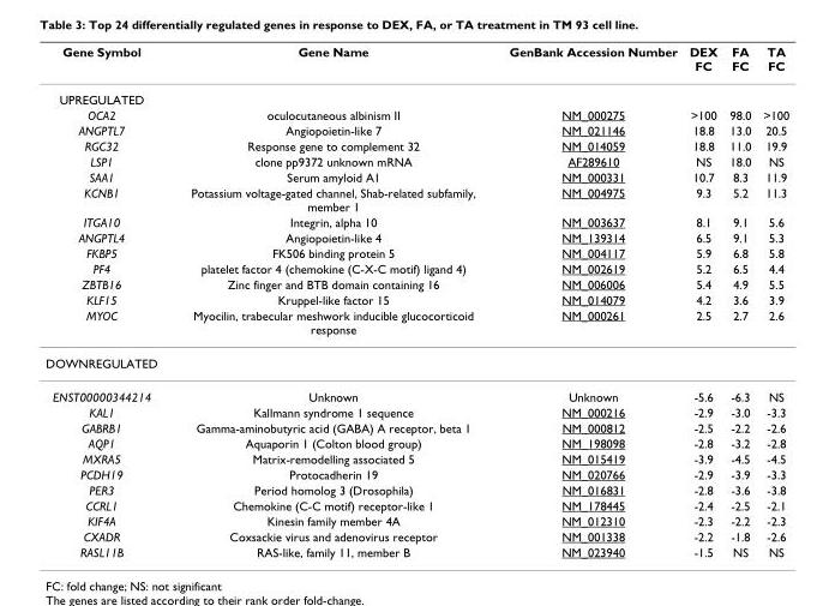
<table><thead><tr><td>Gene Symbol</td><td>Gene Name</td><td>GenBank Accession Number</td><td>DEX FC</td><td>FA FC</td><td>TA FC</td></tr></thead><tbody><tr><td colspan="6">UPREGULATED</td></tr><tr><td>OCA2</td><td>oculocutaneous albinism II</td><td>NM_000275</td><td>&gt;100</td><td>98.0</td><td>&gt;100</td></tr><tr><td>ANGPTL7</td><td>Angiopoietin-like 7</td><td>NM_021146</td><td>18.8</td><td>13.0</td><td>20.5</td></tr><tr><td>RGC32</td><td>Response gene to complement 32</td><td>NM_014059</td><td>18.8</td><td>11.0</td><td>19.9</td></tr><tr><td>LSP1</td><td>clone pp9372 unknown mRNA</td><td>AF289610</td><td>NS</td><td>18.0</td><td>NS</td></tr><tr><td>SAA1</td><td>Serum amyloid A1</td><td>NM_000331</td><td>10.7</td><td>8.3</td><td>11.9</td></tr><tr><td>KCNB1</td><td>Potassium voltage-gated channel, Shab-related subfamily, member 1</td><td>NM_004975</td><td>9.3</td><td>5.2</td><td>11.3</td></tr><tr><td>ITGA10</td><td>Integrin, alpha 10</td><td>NM_003637</td><td>8.1</td><td>9.1</td><td>5.6</td></tr><tr><td>ANGPTL4</td><td>Angiopoietin-like 4</td><td>NM_139314</td><td>6.5</td><td>9.1</td><td>5.3</td></tr><tr><td>FKBP5</td><td>FK506 binding protein 5</td><td>NM_004117</td><td>5.9</td><td>6.8</td><td>5.8</td></tr><tr><td>PF4</td><td>platelet factor 4 (chemokine (C-X-C motif) ligand 4)</td><td>NM_002619</td><td>5.2</td><td>6.5</td><td>4.4</td></tr><tr><td>ZBTB16</td><td>Zinc finger and BTB domain containing 16</td><td>NM_006006</td><td>5.4</td><td>4.9</td><td>5.5</td></tr><tr><td>KLF15</td><td>Kruppel-like factor 15</td><td>NM_014079</td><td>4.2</td><td>3.6</td><td>3.9</td></tr><tr><td>MYOC</td><td>Myocilin, trabecular meshwork inducible glucocorticoid response</td><td>NM_000261</td><td>2.5</td><td>2.7</td><td>2.6</td></tr><tr><td colspan="6">DOWNREGULATED</td></tr><tr><td>ENST00000344214</td><td>Unknown</td><td>Unknown</td><td>-5.6</td><td>-6.3</td><td>NS</td></tr><tr><td>KAL1</td><td>Kallmann syndrome 1 sequence</td><td>NM_000216</td><td>-2.9</td><td>-3.0</td><td>-3.3</td></tr><tr><td>GABRB1</td><td>Gamma-aminobutyric acid (GABA) A receptor, beta 1</td><td>NM_000812</td><td>-2.5</td><td>-2.2</td><td>-2.6</td></tr><tr><td>AQP1</td><td>Aquaporin 1 (Colton blood group)</td><td>NM_198098</td><td>-2.8</td><td>-3.2</td><td>-2.8</td></tr><tr><td>MXRA5</td><td>Matrix-remodelling associated 5</td><td>NM_015419</td><td>-3.9</td><td>-4.5</td><td>-4.5</td></tr><tr><td>PCDH19</td><td>Protocadherin 19</td><td>NM_020766</td><td>-2.9</td><td>-3.9</td><td>-3.3</td></tr><tr><td>PER3</td><td>Period homolog 3 (Drosophila)</td><td>NM_016831</td><td>-2.8</td><td>-3.6</td><td>-3.8</td></tr><tr><td>CCRL1</td><td>Chemokine (C-C motif) receptor-like 1</td><td>NM_178445</td><td>-2.4</td><td>-2.5</td><td>-2.1</td></tr><tr><td>KIF4A</td><td>Kinesin family member 4A</td><td>NM_012310</td><td>-2.3</td><td>-2.2</td><td>-2.3</td></tr><tr><td>CXADR</td><td>Coxsackie virus and adenovirus receptor</td><td>NM_001338</td><td>-2.2</td><td>-1.8</td><td>-2.6</td></tr><tr><td>RASL11B</td><td>RAS-like, family 11, member B</td><td>NM_023940</td><td>-1.5</td><td>NS</td><td>NS</td></tr></tbody></table>